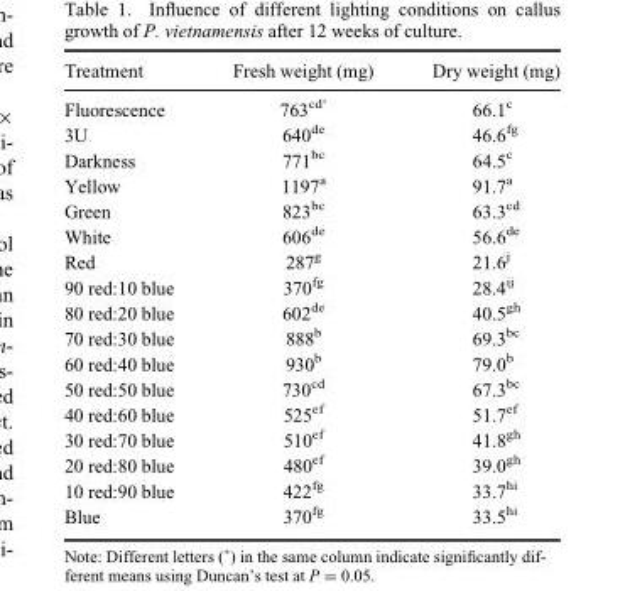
<table><thead><tr><td>Treatment</td><td>Fresh weight (mg)</td><td>Dry weight (mg)</td></tr></thead><tbody><tr><td>Fluorescence</td><td>763<sup>cd*</sup></td><td>66.1<sup>c</sup></td></tr><tr><td>3U</td><td>640<sup>de</sup></td><td>46.6<sup>fg</sup></td></tr><tr><td>Darkness</td><td>771<sup>bc</sup></td><td>64.5<sup>c</sup></td></tr><tr><td>Yellow</td><td>1197<sup>a</sup></td><td>91.7<sup>a</sup></td></tr><tr><td>Green</td><td>823<sup>bc</sup></td><td>63.3<sup>cd</sup></td></tr><tr><td>White</td><td>606<sup>de</sup></td><td>56.6<sup>de</sup></td></tr><tr><td>Red</td><td>287<sup>g</sup></td><td>21.6<sup>j</sup></td></tr><tr><td>90 red:10 blue</td><td>370<sup>fg</sup></td><td>28.4<sup>ij</sup></td></tr><tr><td>80 red:20 blue</td><td>602<sup>de</sup></td><td>40.5<sup>gh</sup></td></tr><tr><td>70 red:30 blue</td><td>888<sup>b</sup></td><td>69.3<sup>bc</sup></td></tr><tr><td>60 red:40 blue</td><td>930<sup>b</sup></td><td>79.0<sup>b</sup></td></tr><tr><td>50 red:50 blue</td><td>730<sup>cd</sup></td><td>67.3<sup>bc</sup></td></tr><tr><td>40 red:60 blue</td><td>525<sup>ef</sup></td><td>51.7<sup>ef</sup></td></tr><tr><td>30 red:70 blue</td><td>510<sup>ef</sup></td><td>41.8<sup>gh</sup></td></tr><tr><td>20 red:80 blue</td><td>480<sup>ef</sup></td><td>39.0<sup>gh</sup></td></tr><tr><td>10 red:90 blue</td><td>422<sup>fg</sup></td><td>33.7<sup>hi</sup></td></tr><tr><td>Blue</td><td>370<sup>fg</sup></td><td>33.5<sup>hi</sup></td></tr></tbody></table>